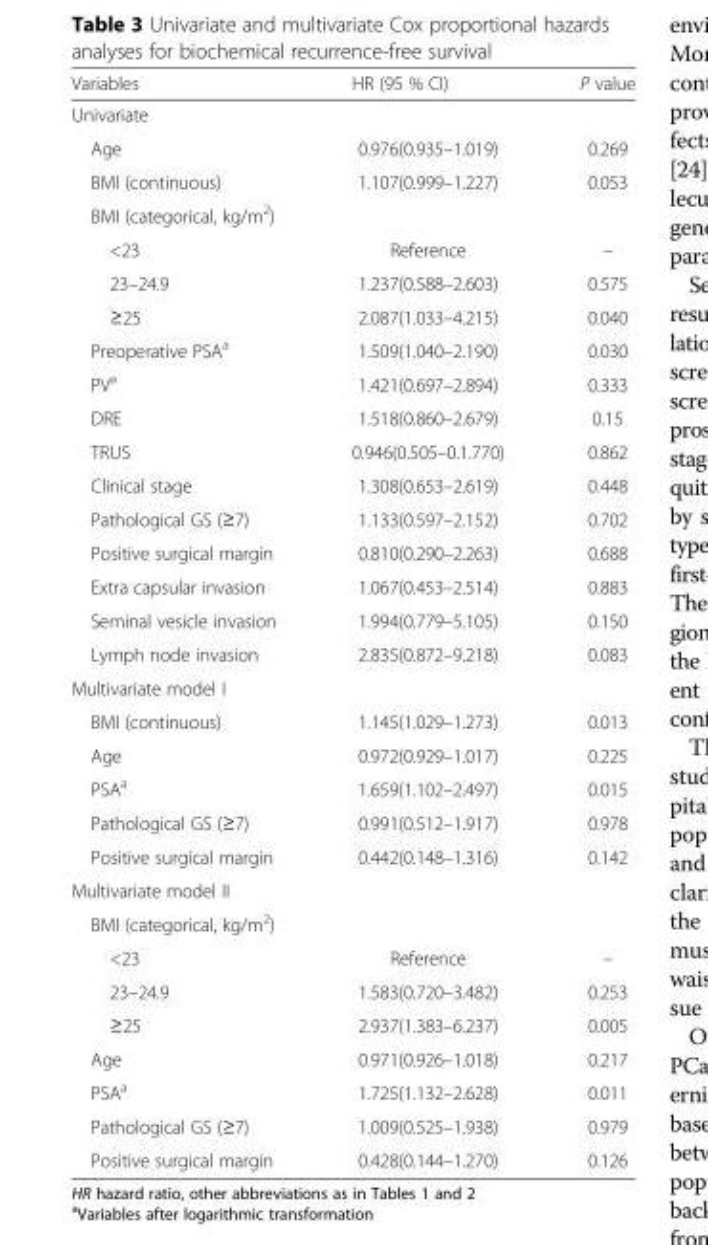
<table><thead><tr><td>Variables</td><td>HR (95 % CI)</td><td>P value</td></tr></thead><tbody><tr><td colspan="3">Univariate</td></tr><tr><td>Age</td><td>0.976(0.935–1.019)</td><td>0.269</td></tr><tr><td>BMI (continuous)</td><td>1.107(0.999–1.227)</td><td>0.053</td></tr><tr><td colspan="3">BMI (categorical, kg/m<sup>2</sup>)</td></tr><tr><td>&lt;23</td><td>Reference</td><td>–</td></tr><tr><td>23–24.9</td><td>1.237(0.588–2.603)</td><td>0.575</td></tr><tr><td>≥25</td><td>2.087(1.033–4.215)</td><td>0.040</td></tr><tr><td>Preoperative PSA<sup>a</sup></td><td>1.509(1.040–2.190)</td><td>0.030</td></tr><tr><td>PV<sup>a</sup></td><td>1.421(0.697–2.894)</td><td>0.333</td></tr><tr><td>DRE</td><td>1.518(0.860–2.679)</td><td>0.15</td></tr><tr><td>TRUS</td><td>0.946(0.505–0.1.770)</td><td>0.862</td></tr><tr><td>Clinical stage</td><td>1.308(0.653–2.619)</td><td>0.448</td></tr><tr><td>Pathological GS (≥7)</td><td>1.133(0.597–2.152)</td><td>0.702</td></tr><tr><td>Positive surgical margin</td><td>0.810(0.290–2.263)</td><td>0.688</td></tr><tr><td>Extra capsular invasion</td><td>1.067(0.453–2.514)</td><td>0.883</td></tr><tr><td>Seminal vesicle invasion</td><td>1.994(0.779–5.105)</td><td>0.150</td></tr><tr><td>Lymph node invasion</td><td>2.835(0.872–9.218)</td><td>0.083</td></tr><tr><td colspan="3">Multivariate model I</td></tr><tr><td>BMI (continuous)</td><td>1.145(1.029–1.273)</td><td>0.013</td></tr><tr><td>Age</td><td>0.972(0.929–1.017)</td><td>0.225</td></tr><tr><td>PSA<sup>a</sup></td><td>1.659(1.102–2.497)</td><td>0.015</td></tr><tr><td>Pathological GS (≥7)</td><td>0.991(0.512–1.917)</td><td>0.978</td></tr><tr><td>Positive surgical margin</td><td>0.442(0.148–1.316)</td><td>0.142</td></tr><tr><td colspan="3">Multivariate model II</td></tr><tr><td colspan="3">BMI (categorical, kg/m<sup>2</sup>)</td></tr><tr><td>&lt;23</td><td>Reference</td><td>–</td></tr><tr><td>23–24.9</td><td>1.583(0.720–3.482)</td><td>0.253</td></tr><tr><td>≥25</td><td>2.937(1.383–6.237)</td><td>0.005</td></tr><tr><td>Age</td><td>0.971(0.926–1.018)</td><td>0.217</td></tr><tr><td>PSA<sup>a</sup></td><td>1.725(1.132–2.628)</td><td>0.011</td></tr><tr><td>Pathological GS (≥7)</td><td>1.009(0.525–1.938)</td><td>0.979</td></tr><tr><td>Positive surgical margin</td><td>0.428(0.144–1.270)</td><td>0.126</td></tr></tbody></table>